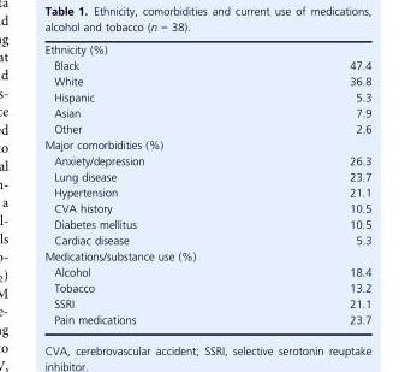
<table><tbody><tr><td colspan="2">Ethnicity (%)</td></tr><tr><td>Black</td><td>47.4</td></tr><tr><td>White</td><td>36.8</td></tr><tr><td>Hispanic</td><td>5.3</td></tr><tr><td>Asian</td><td>7.9</td></tr><tr><td>Other</td><td>2.6</td></tr><tr><td colspan="2">Major comorbidities (%)</td></tr><tr><td>Anxiety/depression</td><td>26.3</td></tr><tr><td>Lung disease</td><td>23.7</td></tr><tr><td>Hypertension</td><td>21.1</td></tr><tr><td>CVA history</td><td>10.5</td></tr><tr><td>Diabetes mellitus</td><td>10.5</td></tr><tr><td>Cardiac disease</td><td>5.3</td></tr><tr><td colspan="2">Medications/substance use (%)</td></tr><tr><td>Alcohol</td><td>18.4</td></tr><tr><td>Tobacco</td><td>13.2</td></tr><tr><td>SSRI</td><td>21.1</td></tr><tr><td>Pain medications</td><td>23.7</td></tr></tbody></table>